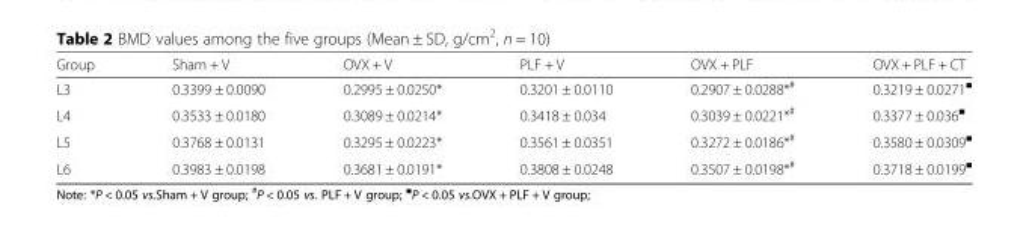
<table><thead><tr><td>Group</td><td>Sham + V</td><td>OVX + V</td><td>PLF + V</td><td>OVX + PLF</td><td>OVX + PLF + CT</td></tr></thead><tbody><tr><td>L3</td><td>0.3399 ± 0.0090</td><td>0.2995 ± 0.0250*</td><td>0.3201 ± 0.0110</td><td>0.2907 ± 0.0288*<sup>#</sup></td><td>0.3219 ± 0.0271<sup>■</sup></td></tr><tr><td>L4</td><td>0.3533 ± 0.0180</td><td>0.3089 ± 0.0214*</td><td>0.3418 ± 0.034</td><td>0.3039 ± 0.0221*<sup>#</sup></td><td>0.3377 ± 0.036<sup>■</sup></td></tr><tr><td>L5</td><td>0.3768 ± 0.0131</td><td>0.3295 ± 0.0223*</td><td>0.3561 ± 0.0351</td><td>0.3272 ± 0.0186*<sup>#</sup></td><td>0.3580 ± 0.0309<sup>■</sup></td></tr><tr><td>L6</td><td>0.3983 ± 0.0198</td><td>0.3681 ± 0.0191*</td><td>0.3808 ± 0.0248</td><td>0.3507 ± 0.0198*<sup>#</sup></td><td>0.3718 ± 0.0199<sup>■</sup></td></tr></tbody></table>